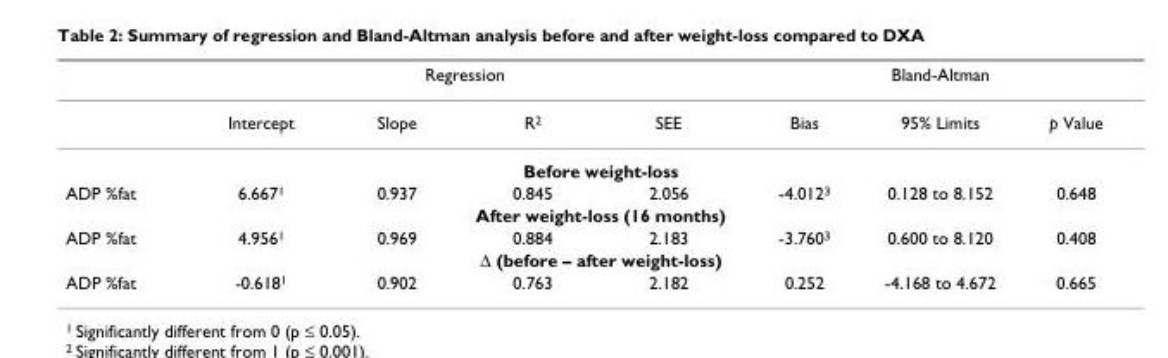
<table><thead><tr><td rowspan="2"></td><td colspan="4">Regression</td><td colspan="3">Bland-Altman</td></tr><tr><td>Intercept</td><td>Slope</td><td>R<sup>2</sup></td><td>SEE</td><td>Bias</td><td>95% Limits</td><td>p Value</td></tr></thead><tbody><tr><td colspan="8">Before weight-loss</td></tr><tr><td>ADP %fat</td><td>6.667<sup>1</sup></td><td>0.937</td><td>0.845</td><td>2.056</td><td>-4.012<sup>3</sup></td><td>0.128 to 8.152</td><td>0.648</td></tr><tr><td colspan="8">After weight-loss (16 months)</td></tr><tr><td>ADP %fat</td><td>4.956<sup>1</sup></td><td>0.969</td><td>0.884</td><td>2.183</td><td>-3.760<sup>3</sup></td><td>0.600 to 8.120</td><td>0.408</td></tr><tr><td colspan="8">Δ (before – after weight-loss)</td></tr><tr><td>ADP %fat</td><td>-0.618<sup>1</sup></td><td>0.902</td><td>0.763</td><td>2.182</td><td>0.252</td><td>-4.168 to 4.672</td><td>0.665</td></tr></tbody></table>